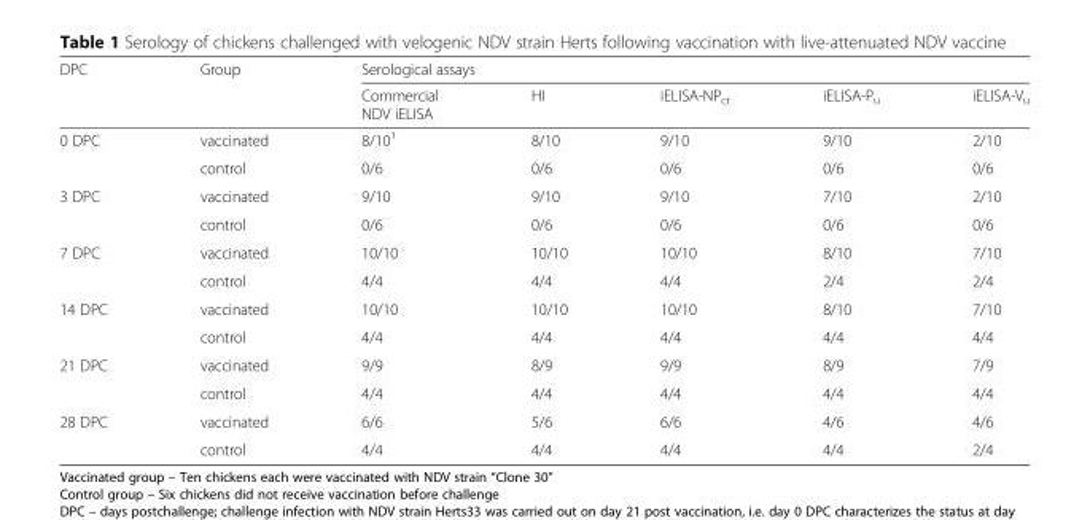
<table><thead><tr><td rowspan="2">DPC</td><td rowspan="2">Group</td><td colspan="5">Serological assays</td></tr><tr><td>Commercial NDV iELISA</td><td>HI</td><td>iELISA-NP<sub>ct</sub></td><td>iELISA-P<sub>u</sub></td><td>iELISA-V<sub>u</sub></td></tr></thead><tbody><tr><td rowspan="2">0 DPC</td><td>vaccinated</td><td>8/10<sup>1</sup></td><td>8/10</td><td>9/10</td><td>9/10</td><td>2/10</td></tr><tr><td>control</td><td>0/6</td><td>0/6</td><td>0/6</td><td>0/6</td><td>0/6</td></tr><tr><td rowspan="2">3 DPC</td><td>vaccinated</td><td>9/10</td><td>9/10</td><td>9/10</td><td>7/10</td><td>2/10</td></tr><tr><td>control</td><td>0/6</td><td>0/6</td><td>0/6</td><td>0/6</td><td>0/6</td></tr><tr><td rowspan="2">7 DPC</td><td>vaccinated</td><td>10/10</td><td>10/10</td><td>10/10</td><td>8/10</td><td>7/10</td></tr><tr><td>control</td><td>4/4</td><td>4/4</td><td>4/4</td><td>2/4</td><td>2/4</td></tr><tr><td rowspan="2">14 DPC</td><td>vaccinated</td><td>10/10</td><td>10/10</td><td>10/10</td><td>8/10</td><td>7/10</td></tr><tr><td>control</td><td>4/4</td><td>4/4</td><td>4/4</td><td>4/4</td><td>4/4</td></tr><tr><td rowspan="2">21 DPC</td><td>vaccinated</td><td>9/9</td><td>8/9</td><td>9/9</td><td>8/9</td><td>7/9</td></tr><tr><td>control</td><td>4/4</td><td>4/4</td><td>4/4</td><td>4/4</td><td>4/4</td></tr><tr><td rowspan="2">28 DPC</td><td>vaccinated</td><td>6/6</td><td>5/6</td><td>6/6</td><td>4/6</td><td>4/6</td></tr><tr><td>control</td><td>4/4</td><td>4/4</td><td>4/4</td><td>4/4</td><td>2/4</td></tr></tbody></table>